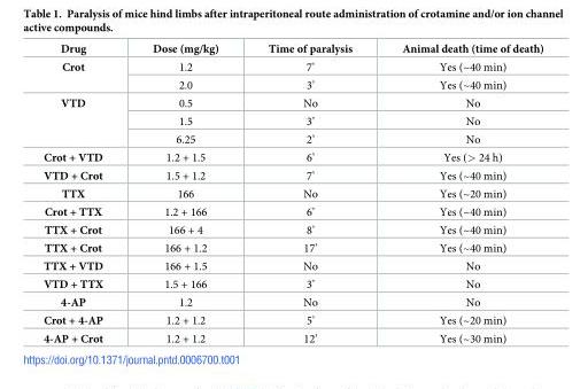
<table><thead><tr><td>Drug</td><td>Dose (mg/kg)</td><td>Time of paralysis</td><td>Animal death (time of death)</td></tr></thead><tbody><tr><td rowspan="2">Crot</td><td>1.2</td><td>7’</td><td>Yes (~40 min)</td></tr><tr><td>2.0</td><td>3’</td><td>Yes (~40 min)</td></tr><tr><td rowspan="3">VTD</td><td>0.5</td><td>No</td><td>No</td></tr><tr><td>1.5</td><td>3’</td><td>No</td></tr><tr><td>6.25</td><td>2’</td><td>No</td></tr><tr><td>Crot + VTD</td><td>1.2 + 1.5</td><td>6’</td><td>Yes (&gt; 24 h)</td></tr><tr><td>VTD + Crot</td><td>1.5 + 1.2</td><td>7’</td><td>Yes (~40 min)</td></tr><tr><td>TTX</td><td>166</td><td>No</td><td>Yes (~20 min)</td></tr><tr><td>Crot + TTX</td><td>1.2 + 166</td><td>6’</td><td>Yes (~40 min)</td></tr><tr><td>TTX + Crot</td><td>166 + 4</td><td>8’</td><td>Yes (~40 min)</td></tr><tr><td>TTX + Crot</td><td>166 + 1.2</td><td>17’</td><td>Yes (~40 min)</td></tr><tr><td>TTX + VTD</td><td>166 + 1.5</td><td>No</td><td>No</td></tr><tr><td>VTD + TTX</td><td>1.5 + 166</td><td>3’</td><td>No</td></tr><tr><td>4-AP</td><td>1.2</td><td>No</td><td>No</td></tr><tr><td>Crot + 4-AP</td><td>1.2 + 1.2</td><td>5’</td><td>Yes (~20 min)</td></tr><tr><td>4-AP + Crot</td><td>1.2 + 1.2</td><td>12’</td><td>Yes (~30 min)</td></tr></tbody></table>